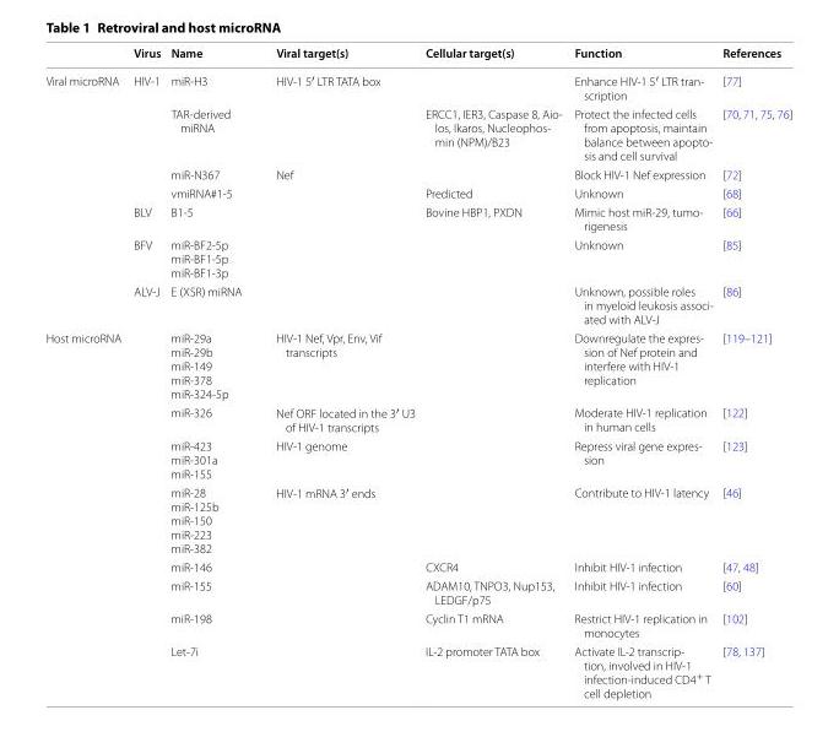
<table><thead><tr><td></td><td>Virus</td><td>Name</td><td>Viral target(s)</td><td>Cellular target(s)</td><td>Function</td><td>References</td></tr></thead><tbody><tr><td rowspan="7">Viral microRNA</td><td>HIV-1</td><td>miR-H3</td><td>HIV-1 5′ LTR TATA box</td><td></td><td>Enhance HIV-1 5′ LTR tran- scription</td><td>[77]</td></tr><tr><td></td><td>TAR-derived miRNA</td><td></td><td>ERCC1, IER3, Caspase 8, Aio- los, Ikaros, Nucleophos- min (NPM)/B23</td><td>Protect the infected cells from apoptosis, maintain balance between apopto- sis and cell survival</td><td>[70, 71, 75, 76]</td></tr><tr><td></td><td>miR-N367</td><td>Nef</td><td></td><td>Block HIV-1 Nef expression</td><td>[72]</td></tr><tr><td></td><td>vmiRNA#1-5</td><td></td><td>Predicted</td><td>Unknown</td><td>[68]</td></tr><tr><td>BLV</td><td>B1-5</td><td></td><td>Bovine HBP1, PXDN</td><td>Mimic host miR-29, tumo- rigenesis</td><td>[66]</td></tr><tr><td>BFV</td><td>miR-BF2-5p miR-BF1-5p miR-BF1-3p</td><td></td><td></td><td>Unknown</td><td>[85]</td></tr><tr><td>ALV-J</td><td>E (XSR) miRNA</td><td></td><td></td><td>Unknown, possible roles in myeloid leukosis associ- ated with ALV-J</td><td>[86]</td></tr><tr><td rowspan="8">Host microRNA</td><td></td><td>miR-29a miR-29b miR-149 miR-378 miR-324-5p</td><td>HIV-1 Nef, Vpr, Env, Vif transcripts</td><td></td><td>Downregulate the expres- sion of Nef protein and interfere with HIV-1 replication</td><td>[119–121]</td></tr><tr><td></td><td>miR-326</td><td>Nef ORF located in the 3′ U3 of HIV-1 transcripts</td><td></td><td>Moderate HIV-1 replication in human cells</td><td>[122]</td></tr><tr><td></td><td>miR-423 miR-301a miR-155</td><td>HIV-1 genome</td><td></td><td>Repress viral gene expres- sion</td><td>[123]</td></tr><tr><td></td><td>miR-28 miR-125b miR-150 miR-223 miR-382</td><td>HIV-1 mRNA 3′ ends</td><td></td><td>Contribute to HIV-1 latency</td><td>[46]</td></tr><tr><td></td><td>miR-146</td><td></td><td>CXCR4</td><td>Inhibit HIV-1 infection</td><td>[47, 48]</td></tr><tr><td></td><td>miR-155</td><td></td><td>ADAM10, TNPO3, Nup153, LEDGF/p75</td><td>Inhibit HIV-1 infection</td><td>[60]</td></tr><tr><td></td><td>miR-198</td><td></td><td>Cyclin T1 mRNA</td><td>Restrict HIV-1 replication in monocytes</td><td>[102]</td></tr><tr><td></td><td>Let-7i</td><td></td><td>IL-2 promoter TATA box</td><td>Activate IL-2 transcrip- tion, involved in HIV-1 infection-induced CD4+ T cell depletion</td><td>[78, 137]</td></tr></tbody></table>